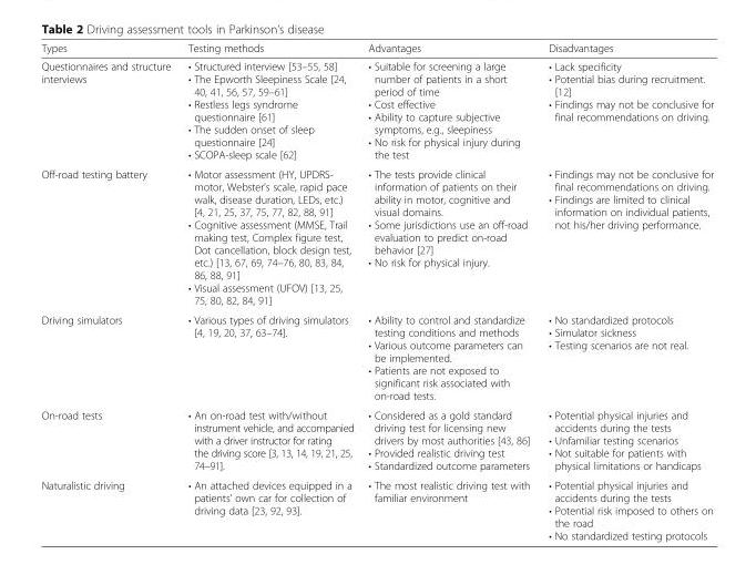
<table><thead><tr><td>Types</td><td>Testing methods</td><td>Advantages</td><td>Disadvantages</td></tr></thead><tbody><tr><td>Questionnaires and structure interviews</td><td>• Structured interview [53–55, 58] • The Epworth Sleepiness Scale [24, 40, 41, 56, 57, 59–61] • Restless legs syndrome questionnaire [61] • The sudden onset of sleep questionnaire [24] • SCOPA-sleep scale [62]</td><td>• Suitable for screening a large number of patients in a short period of time • Cost effective • Ability to capture subjective symptoms, e.g., sleepiness • No risk for physical injury during the test</td><td>• Lack specificity • Potential bias during recruitment. [12] • Findings may not be conclusive for final recommendations on driving.</td></tr><tr><td>Off-road testing battery</td><td>• Motor assessment (HY, UPDRS- motor, Webster’s scale, rapid pace walk, disease duration, LEDs, etc.) [4, 21, 25, 37, 75, 77, 82, 88, 91] • Cognitive assessment (MMSE, Trail making test, Complex figure test, Dot cancellation, block design test, etc.) [13, 67, 69, 74–76, 80, 83, 84, 86, 88, 91] • Visual assessment (UFOV) [13, 25, 75, 80, 82, 84, 91]</td><td>• The tests provide clinical information of patients on their ability in motor, cognitive and visual domains. • Some jurisdictions use an off-road evaluation to predict on-road behavior [27] • No risk for physical injury.</td><td>• Findings may not be conclusive for final recommendations on driving. • Findings are limited to clinical information on individual patients, not his/her driving performance.</td></tr><tr><td>Driving simulators</td><td>• Various types of driving simulators [4, 19, 20, 37, 63–74].</td><td>• Ability to control and standardize testing conditions and methods • Various outcome parameters can be implemented. • Patients are not exposed to significant risk associated with on-road tests.</td><td>• No standardized protocols • Simulator sickness • Testing scenarios are not real.</td></tr><tr><td>On-road tests</td><td>• An on-road test with/without instrument vehicle, and accompanied with a driver instructor for rating the driving score [3, 13, 14, 19, 21, 25, 74–91].</td><td>• Considered as a gold standard driving test for licensing new drivers by most authorities [43, 86] • Provided realistic driving test • Standardized outcome parameters</td><td>• Potential physical injuries and accidents during the tests • Unfamiliar testing scenarios • Not suitable for patients with physical limitations or handicaps</td></tr><tr><td>Naturalistic driving</td><td>• An attached devices equipped in a patients’ own car for collection of driving data [23, 92, 93].</td><td>• The most realistic driving test with familiar environment</td><td>• Potential physical injuries and accidents during the tests • Potential risk imposed to others on the road • No standardized testing protocols</td></tr></tbody></table>